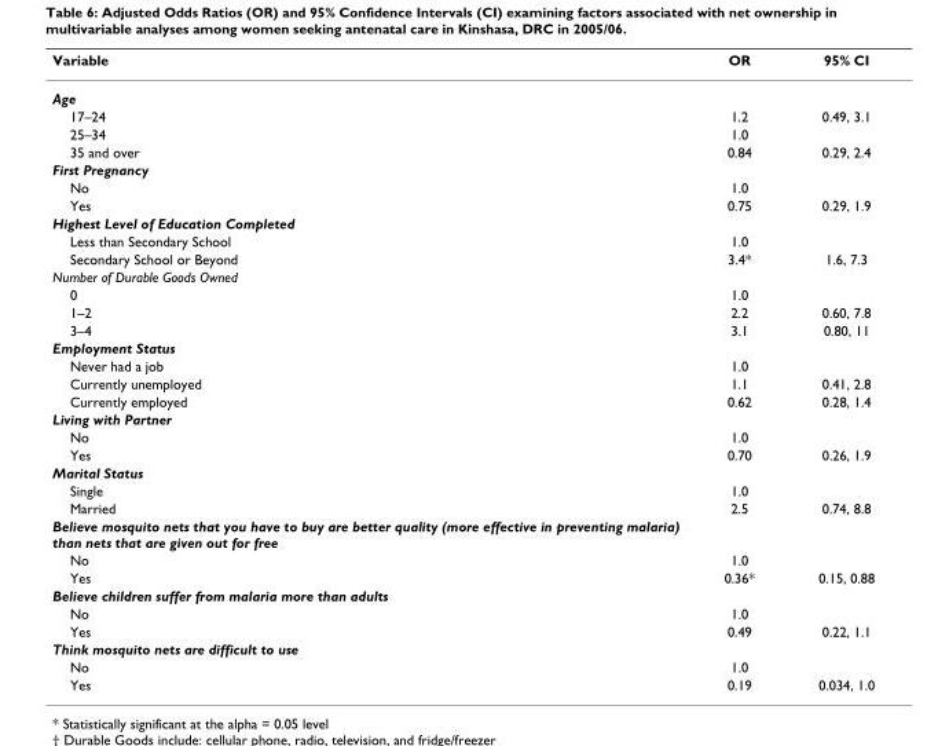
<table><thead><tr><td>Variable</td><td>OR</td><td>95% CI</td></tr></thead><tbody><tr><td colspan="3">Age</td></tr><tr><td>17–24</td><td>1.2</td><td>0.49, 3.1</td></tr><tr><td>25–34</td><td>1.0</td><td></td></tr><tr><td>35 and over</td><td>0.84</td><td>0.29, 2.4</td></tr><tr><td colspan="3">First Pregnancy</td></tr><tr><td>No</td><td>1.0</td><td></td></tr><tr><td>Yes</td><td>0.75</td><td>0.29, 1.9</td></tr><tr><td colspan="3">Highest Level of Education Completed</td></tr><tr><td>Less than Secondary School</td><td>1.0</td><td></td></tr><tr><td>Secondary School or Beyond</td><td>3.4*</td><td>1.6, 7.3</td></tr><tr><td colspan="3">Number of Durable Goods Owned</td></tr><tr><td>0</td><td>1.0</td><td></td></tr><tr><td>1–2</td><td>2.2</td><td>0.60, 7.8</td></tr><tr><td>3–4</td><td>3.1</td><td>0.80, 11</td></tr><tr><td colspan="3">Employment Status</td></tr><tr><td>Never had a job</td><td>1.0</td><td></td></tr><tr><td>Currently unemployed</td><td>1.1</td><td>0.41, 2.8</td></tr><tr><td>Currently employed</td><td>0.62</td><td>0.28, 1.4</td></tr><tr><td colspan="3">Living with Partner</td></tr><tr><td>No</td><td>1.0</td><td></td></tr><tr><td>Yes</td><td>0.70</td><td>0.26, 1.9</td></tr><tr><td colspan="3">Marital Status</td></tr><tr><td>Single</td><td>1.0</td><td></td></tr><tr><td>Married</td><td>2.5</td><td>0.74, 8.8</td></tr><tr><td colspan="3">Believe mosquito nets that you have to buy are better quality (more effective in preventing malaria) than nets that are given out for free</td></tr><tr><td>No</td><td>1.0</td><td></td></tr><tr><td>Yes</td><td>0.36*</td><td>0.15, 0.88</td></tr><tr><td colspan="3">Believe children suffer from malaria more than adults</td></tr><tr><td>No</td><td>1.0</td><td></td></tr><tr><td>Yes</td><td>0.49</td><td>0.22, 1.1</td></tr><tr><td colspan="3">Think mosquito nets are difficult to use</td></tr><tr><td>No</td><td>1.0</td><td></td></tr><tr><td>Yes</td><td>0.19</td><td>0.034, 1.0</td></tr></tbody></table>